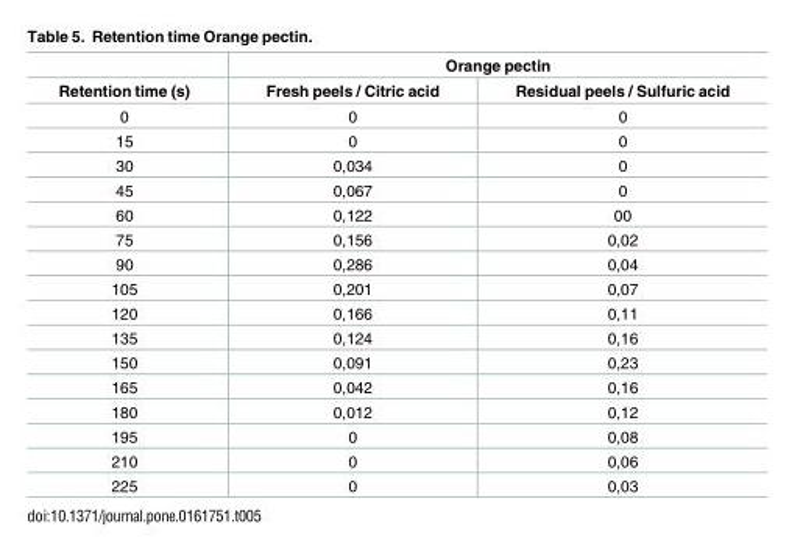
<table><thead><tr><td rowspan="2">Retention time (s)</td><td colspan="2">Orange pectin</td></tr><tr><td>Fresh peels / Citric acid</td><td>Residual peels / Sulfuric acid</td></tr></thead><tbody><tr><td>0</td><td>0</td><td>0</td></tr><tr><td>15</td><td>0</td><td>0</td></tr><tr><td>30</td><td>0,034</td><td>0</td></tr><tr><td>45</td><td>0,067</td><td>0</td></tr><tr><td>60</td><td>0,122</td><td>00</td></tr><tr><td>75</td><td>0,156</td><td>0,02</td></tr><tr><td>90</td><td>0,286</td><td>0,04</td></tr><tr><td>105</td><td>0,201</td><td>0,07</td></tr><tr><td>120</td><td>0,166</td><td>0,11</td></tr><tr><td>135</td><td>0,124</td><td>0,16</td></tr><tr><td>150</td><td>0,091</td><td>0,23</td></tr><tr><td>165</td><td>0,042</td><td>0,16</td></tr><tr><td>180</td><td>0,012</td><td>0,12</td></tr><tr><td>195</td><td>0</td><td>0,08</td></tr><tr><td>210</td><td>0</td><td>0,06</td></tr><tr><td>225</td><td>0</td><td>0,03</td></tr></tbody></table>